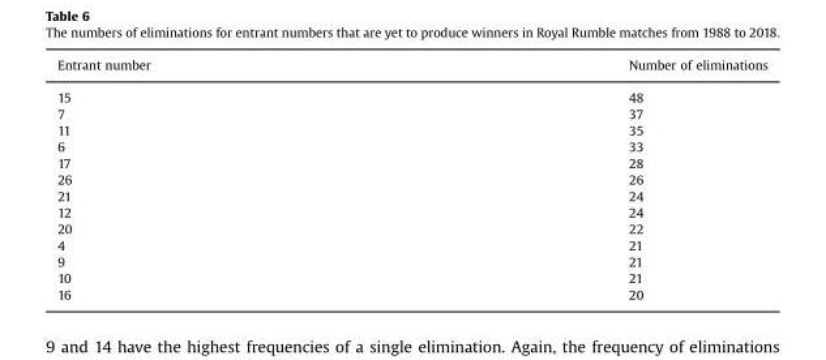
<table><thead><tr><td>Entrant number</td><td>Number of eliminations</td></tr></thead><tbody><tr><td>15</td><td>48</td></tr><tr><td>7</td><td>37</td></tr><tr><td>11</td><td>35</td></tr><tr><td>6</td><td>33</td></tr><tr><td>17</td><td>28</td></tr><tr><td>26</td><td>26</td></tr><tr><td>21</td><td>24</td></tr><tr><td>12</td><td>24</td></tr><tr><td>20</td><td>22</td></tr><tr><td>4</td><td>21</td></tr><tr><td>9</td><td>21</td></tr><tr><td>10</td><td>21</td></tr><tr><td>16</td><td>20</td></tr></tbody></table>